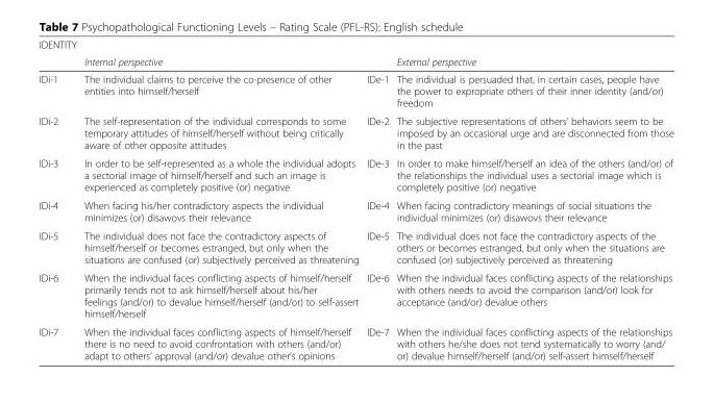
<table><thead><tr><td rowspan="2">IDENTITY</td><td rowspan="2">Internal perspective</td><td rowspan="2"></td><td rowspan="2">External perspective</td></tr><tr></tr></thead><tbody><tr><td>IDi-1</td><td>The individual claims to perceive the co-presence of other entities into himself/herself</td><td>IDe-1</td><td>The individual is persuaded that, in certain cases, people have the power to expropriate others of their inner identity (and/or) freedom</td></tr><tr><td>IDi-2</td><td>The self-representation of the individual corresponds to some temporary attitudes of himself/herself without being critically aware of other opposite attitudes</td><td>IDe-2</td><td>The subjective representations of others’ behaviors seem to be imposed by an occasional urge and are disconnected from those in the past</td></tr><tr><td>IDi-3</td><td>In order to be self-represented as a whole the individual adopts a sectorial image of himself/herself and such an image is experienced as completely positive (or) negative</td><td>IDe-3</td><td>In order to make himself/herself an idea of the others (and/or) of the relationships the individual uses a sectorial image which is completely positive (or) negative</td></tr><tr><td>IDi-4</td><td>When facing his/her contradictory aspects the individual minimizes (or) disawovs their relevance</td><td>IDe-4</td><td>When facing contradictory meanings of social situations the individual minimizes (or) disawovs their relevance</td></tr><tr><td>IDi-5</td><td>The individual does not face the contradictory aspects of himself/herself or becomes estranged, but only when the situations are confused (or) subjectively perceived as threatening</td><td>IDe-5</td><td>The individual does not face the contradictory aspects of the others or becomes estranged, but only when the situations are confused (or) subjectively perceived as threatening</td></tr><tr><td>IDi-6</td><td>When the individual faces conflicting aspects of himself/herself primarily tends not to ask himself/herself about his/her feelings (and/or) to devalue himself/herself (and/or) to self-assert himself/herself</td><td>IDe-6</td><td>When the individual faces conflicting aspects of the relationships with others needs to avoid the comparison (and/or) look for acceptance (and/or) devalue others</td></tr><tr><td>IDi-7</td><td>When the individual faces conflicting aspects of himself/herself there is no need to avoid confrontation with others (and/or) adapt to others’ approval (and/or) devalue other’s opinions</td><td>IDe-7</td><td>When the individual faces conflicting aspects of the relationships with others he/she does not tend systematically to worry (and/ or) devalue himself/herself (and/or) self-assert himself/herself</td></tr></tbody></table>